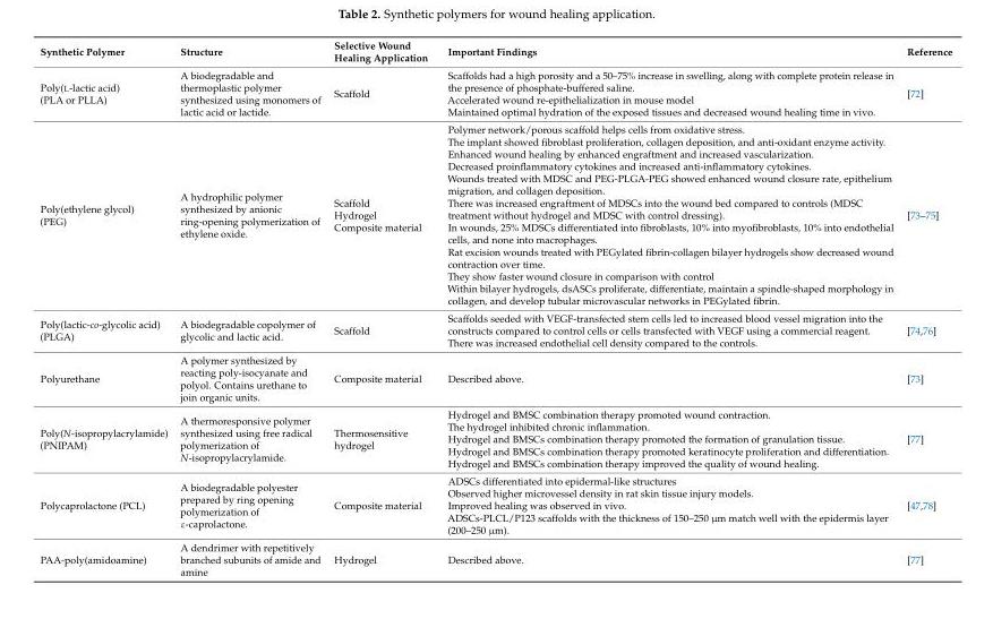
<table><thead><tr><td>Synthetic Polymer</td><td>Structure</td><td>Selective Wound Healing Application</td><td>Important Findings</td><td>Reference</td></tr></thead><tbody><tr><td>Poly(L-lactic acid) (PLA or PLLA)</td><td>A biodegradable and thermoplastic polymer synthesized using monomers of lactic acid or lactide.</td><td>Scaffold</td><td>Scaffolds had a high porosity and a 50–75% increase in swelling, along with complete protein release in the presence of phosphate-buffered saline. Accelerated wound re-epithelialization in mouse model Maintained optimal hydration of the exposed tissues and decreased wound healing time in vivo.</td><td>[72]</td></tr><tr><td>Poly(ethylene glycol) (PEG)</td><td>A hydrophilic polymer synthesized by anionic ring-opening polymerization of ethylene oxide.</td><td>Scaffold Hydrogel Composite material</td><td>Polymer network/porous scaffold helps cells from oxidative stress. The implant showed fibroblast proliferation, collagen deposition, and anti-oxidant enzyme activity. Enhanced wound healing by enhanced engraftment and increased vascularization. Decreased proinflammatory cytokines and increased anti-inflammatory cytokines. Wounds treated with MDSC and PEG-PLGA-PEG showed enhanced wound closure rate, epithelium migration, and collagen deposition. There was increased engraftment of MDSCs into the wound bed compared to controls (MDSC treatment without hydrogel and MDSC with control dressing). In wounds, 25% MDSCs differentiated into fibroblasts, 10% into myofibroblasts, 10% into endothelial cells, and none into macrophages. Rat excision wounds treated with PEGylated fibrin-collagen bilayer hydrogels show decreased wound contraction over time. They show faster wound closure in comparison with control Within bilayer hydrogels, dsASCs proliferate, differentiate, maintain a spindle-shaped morphology in collagen, and develop tubular microvascular networks in PEGylated fibrin.</td><td>[73–75]</td></tr><tr><td>Poly(lactic-co-glycolic acid) (PLGA)</td><td>A biodegradable copolymer of glycolic and lactic acid.</td><td>Scaffold</td><td>Scaffolds seeded with VEGF-transfected stem cells led to increased blood vessel migration into the constructs compared to control cells or cells transfected with VEGF using a commercial reagent. There was increased endothelial cell density compared to the controls.</td><td>[74,76]</td></tr><tr><td>Polyurethane</td><td>A polymer synthesized by reacting poly-isocyanate and polyol. Contains urethane to join organic units.</td><td>Composite material</td><td>Described above.</td><td>[73]</td></tr><tr><td>Poly(N-isopropylacrylamide) (PNIPAM)</td><td>A thermoresponsive polymer synthesized using free radical polymerization of N-isopropylacrylamide.</td><td>Thermosensitive hydrogel</td><td>Hydrogel and BMSC combination therapy promoted wound contraction. The hydrogel inhibited chronic inflammation. Hydrogel and BMSCs combination therapy promoted the formation of granulation tissue. Hydrogel and BMSCs combination therapy promoted keratinocyte proliferation and differentiation. Hydrogel and BMSCs combination therapy improved the quality of wound healing.</td><td>[77]</td></tr><tr><td>Polycaprolactone (PCL)</td><td>A biodegradable polyester prepared by ring opening polymerization of ε-caprolactone.</td><td>Composite material</td><td>ADSCs differentiated into epidermal-like structures Observed higher microvessel density in rat skin tissue injury models. Improved healing was observed in vivo. ADSCs-PLCL/P123 scaffolds with the thickness of 150–250 µm match well with the epidermis layer (200–250 µm).</td><td>[47,78]</td></tr><tr><td>PAA-poly(amidoamine)</td><td>A dendrimer with repetitively branched subunits of amide and amine</td><td>Hydrogel</td><td>Described above.</td><td>[77]</td></tr></tbody></table>